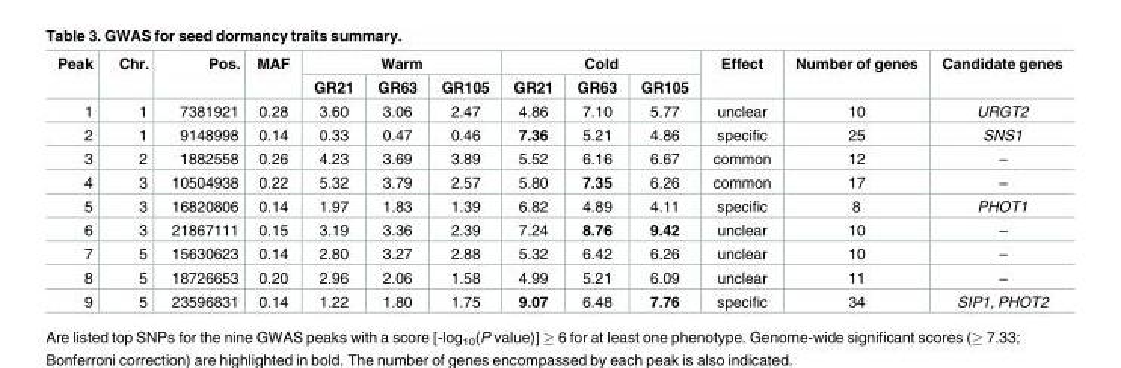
<table><thead><tr><td rowspan="2">Peak</td><td rowspan="2">Chr.</td><td rowspan="2">Pos.</td><td rowspan="2">MAF</td><td colspan="3">Warm</td><td colspan="3">Cold</td><td rowspan="2">Effect</td><td rowspan="2">Number of genes</td><td rowspan="2">Candidate genes</td></tr><tr><td>GR21</td><td>GR63</td><td>GR105</td><td>GR21</td><td>GR63</td><td>GR105</td></tr></thead><tbody><tr><td>1</td><td>1</td><td>7381921</td><td>0.28</td><td>3.60</td><td>3.06</td><td>2.47</td><td>4.86</td><td>7.10</td><td>5.77</td><td>unclear</td><td>10</td><td>URGT2</td></tr><tr><td>2</td><td>1</td><td>9148998</td><td>0.14</td><td>0.33</td><td>0.47</td><td>0.46</td><td>7.36</td><td>5.21</td><td>4.86</td><td>specific</td><td>25</td><td>SNS1</td></tr><tr><td>3</td><td>2</td><td>1882558</td><td>0.26</td><td>4.23</td><td>3.69</td><td>3.89</td><td>5.52</td><td>6.16</td><td>6.67</td><td>common</td><td>12</td><td>–</td></tr><tr><td>4</td><td>3</td><td>10504938</td><td>0.22</td><td>5.32</td><td>3.79</td><td>2.57</td><td>5.80</td><td>7.35</td><td>6.26</td><td>common</td><td>17</td><td>–</td></tr><tr><td>5</td><td>3</td><td>16820806</td><td>0.14</td><td>1.97</td><td>1.83</td><td>1.39</td><td>6.82</td><td>4.89</td><td>4.11</td><td>specific</td><td>8</td><td>PHOT1</td></tr><tr><td>6</td><td>3</td><td>21867111</td><td>0.15</td><td>3.19</td><td>3.36</td><td>2.39</td><td>7.24</td><td>8.76</td><td>9.42</td><td>unclear</td><td>10</td><td>–</td></tr><tr><td>7</td><td>5</td><td>15630623</td><td>0.14</td><td>2.80</td><td>3.27</td><td>2.88</td><td>5.32</td><td>6.42</td><td>6.26</td><td>unclear</td><td>10</td><td>–</td></tr><tr><td>8</td><td>5</td><td>18726653</td><td>0.20</td><td>2.96</td><td>2.06</td><td>1.58</td><td>4.99</td><td>5.21</td><td>6.09</td><td>unclear</td><td>11</td><td>–</td></tr><tr><td>9</td><td>5</td><td>23596831</td><td>0.14</td><td>1.22</td><td>1.80</td><td>1.75</td><td>9.07</td><td>6.48</td><td>7.76</td><td>specific</td><td>34</td><td>SIP1, PHOT2</td></tr></tbody></table>